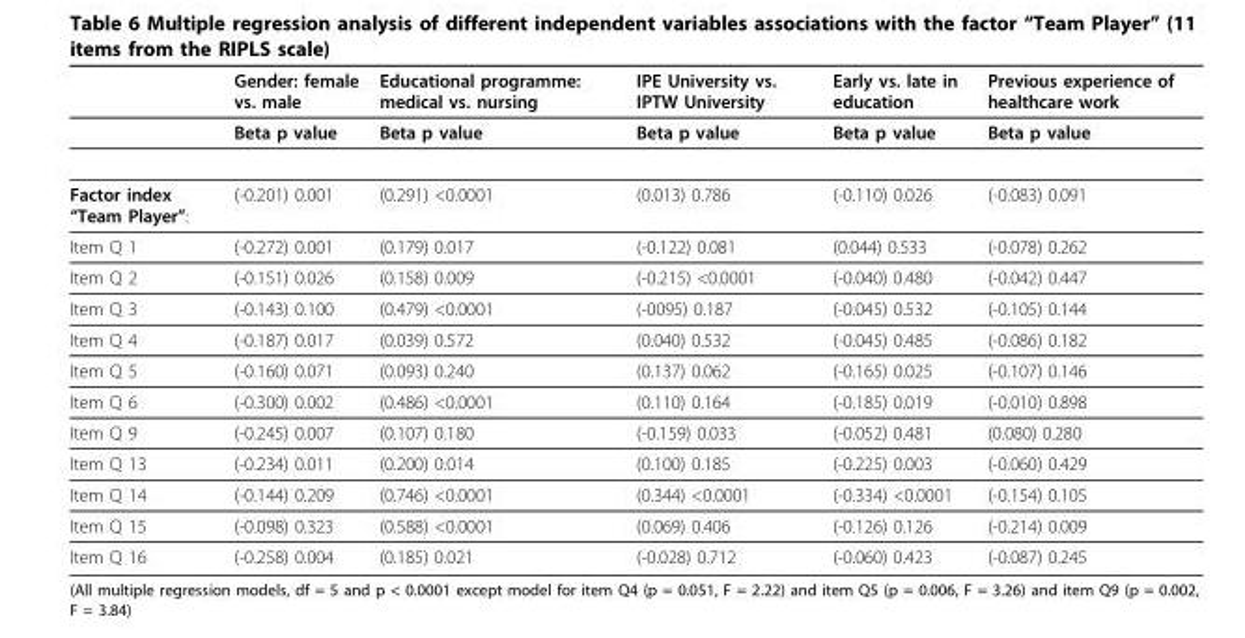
<table><thead><tr><td></td><td>Gender: female vs. male</td><td>Educational programme: medical vs. nursing</td><td>IPE University vs. IPTW University</td><td>Early vs. late in education</td><td>Previous experience of healthcare work</td></tr></thead><tbody><tr><td></td><td>Beta p value</td><td>Beta p value</td><td>Beta p value</td><td>Beta p value</td><td>Beta p value</td></tr><tr><td>Factor index “Team Player”:</td><td>(-0.201) 0.001</td><td>(0.291) &lt;0.0001</td><td>(0.013) 0.786</td><td>(-0.110) 0.026</td><td>(-0.083) 0.091</td></tr><tr><td>Item Q 1</td><td>(-0.272) 0.001</td><td>(0.179) 0.017</td><td>(-0.122) 0.081</td><td>(0.044) 0.533</td><td>(-0.078) 0.262</td></tr><tr><td>Item Q 2</td><td>(-0.151) 0.026</td><td>(0.158) 0.009</td><td>(-0.215) &lt;0.0001</td><td>(-0.040) 0.480</td><td>(-0.042) 0.447</td></tr><tr><td>Item Q 3</td><td>(-0.143) 0.100</td><td>(0.479) &lt;0.0001</td><td>(-0095) 0.187</td><td>(-0.045) 0.532</td><td>(-0.105) 0.144</td></tr><tr><td>Item Q 4</td><td>(-0.187) 0.017</td><td>(0.039) 0.572</td><td>(0.040) 0.532</td><td>(-0.045) 0.485</td><td>(-0.086) 0.182</td></tr><tr><td>Item Q 5</td><td>(-0.160) 0.071</td><td>(0.093) 0.240</td><td>(0.137) 0.062</td><td>(-0.165) 0.025</td><td>(-0.107) 0.146</td></tr><tr><td>Item Q 6</td><td>(-0.300) 0.002</td><td>(0.486) &lt;0.0001</td><td>(0.110) 0.164</td><td>(-0.185) 0.019</td><td>(-0.010) 0.898</td></tr><tr><td>Item Q 9</td><td>(-0.245) 0.007</td><td>(0.107) 0.180</td><td>(-0.159) 0.033</td><td>(-0.052) 0.481</td><td>(0.080) 0.280</td></tr><tr><td>Item Q 13</td><td>(-0.234) 0.011</td><td>(0.200) 0.014</td><td>(0.100) 0.185</td><td>(-0.225) 0.003</td><td>(-0.060) 0.429</td></tr><tr><td>Item Q 14</td><td>(-0.144) 0.209</td><td>(0.746) &lt;0.0001</td><td>(0.344) &lt;0.0001</td><td>(-0.334) &lt;0.0001</td><td>(-0.154) 0.105</td></tr><tr><td>Item Q 15</td><td>(-0.098) 0.323</td><td>(0.588) &lt;0.0001</td><td>(0.069) 0.406</td><td>(-0.126) 0.126</td><td>(-0.214) 0.009</td></tr><tr><td>Item Q 16</td><td>(-0.258) 0.004</td><td>(0.185) 0.021</td><td>(-0.028) 0.712</td><td>(-0.060) 0.423</td><td>(-0.087) 0.245</td></tr></tbody></table>